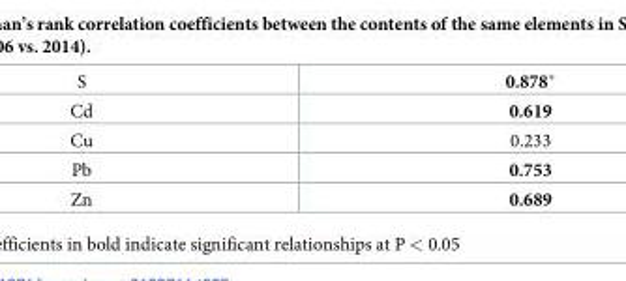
<table><tbody><tr><td>S</td><td>0.878*</td></tr><tr><td>Cd</td><td>0.619</td></tr><tr><td>Cu</td><td>0.233</td></tr><tr><td>Pb</td><td>0.753</td></tr><tr><td>Zn</td><td>0.689</td></tr></tbody></table>